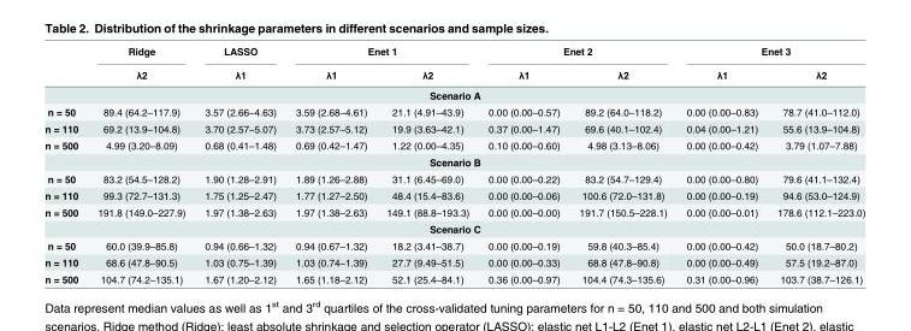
<table><thead><tr><td rowspan="2"></td><td rowspan="2">Ridge λ2</td><td rowspan="2">LASSO λ1</td><td colspan="2">Enet 1</td><td colspan="2">Enet 2</td><td colspan="2">Enet 3</td></tr><tr><td>λ1</td><td>λ2</td><td>λ1</td><td>λ2</td><td>λ1</td><td>λ2</td></tr></thead><tbody><tr><td colspan="9">Scenario A</td></tr><tr><td>n = 50</td><td>89.4 (64.2–117.9)</td><td>3.57 (2.66–4.63)</td><td>3.59 (2.68–4.61)</td><td>21.1 (4.91–43.9)</td><td>0.00 (0.00–0.57)</td><td>89.2 (64.0–118.2)</td><td>0.00 (0.00–0.83)</td><td>78.7 (41.0–112.0)</td></tr><tr><td>n = 110</td><td>69.2 (13.9–104.8)</td><td>3.70 (2.57–5.07)</td><td>3.73 (2.57–5.12)</td><td>19.9 (3.63–42.1)</td><td>0.37 (0.00–1.47)</td><td>69.6 (40.1–102.4)</td><td>0.04 (0.00–1.21)</td><td>55.6 (13.9–104.8)</td></tr><tr><td>n = 500</td><td>4.99 (3.20–8.09)</td><td>0.68 (0.41–1.48)</td><td>0.69 (0.42–1.47)</td><td>1.22 (0.00–4.35)</td><td>0.10 (0.00–0.60)</td><td>4.98 (3.13–8.06)</td><td>0.00 (0.00–0.42)</td><td>3.79 (1.07–7.88)</td></tr><tr><td colspan="9">Scenario B</td></tr><tr><td>n = 50</td><td>83.2 (54.5–128.2)</td><td>1.90 (1.28–2.91)</td><td>1.89 (1.26–2.88)</td><td>31.1 (6.45–69.0)</td><td>0.00 (0.00–0.22)</td><td>83.2 (54.7–129.4)</td><td>0.00 (0.00–0.80)</td><td>79.6 (41.1–132.4)</td></tr><tr><td>n = 110</td><td>99.3 (72.7–131.3)</td><td>1.75 (1.25–2.47)</td><td>1.77 (1.27–2.50)</td><td>48.4 (15.4–83.6)</td><td>0.00 (0.00–0.06)</td><td>100.6 (72.0–131.8)</td><td>0.00 (0.00–0.19)</td><td>94.6 (53.0–124.9)</td></tr><tr><td>n = 500</td><td>191.8 (149.0–227.9)</td><td>1.97 (1.38–2.63)</td><td>1.97 (1.38–2.63)</td><td>149.1 (88.8–193.3)</td><td>0.00 (0.00–0.00)</td><td>191.7 (150.5–228.1)</td><td>0.00 (0.00–0.01)</td><td>178.6 (112.1–223.0)</td></tr><tr><td colspan="9">Scenario C</td></tr><tr><td>n = 50</td><td>60.0 (39.9–85.8)</td><td>0.94 (0.66–1.32)</td><td>0.94 (0.67–1.32)</td><td>18.2 (3.41–38.7)</td><td>0.00 (0.00–0.19)</td><td>59.8 (40.3–85.4)</td><td>0.00 (0.00–0.42)</td><td>50.0 (18.7–80.2)</td></tr><tr><td>n = 110</td><td>68.6 (47.8–90.5)</td><td>1.03 (0.75–1.39)</td><td>1.03 (0.74–1.39)</td><td>27.7 (9.49–51.5)</td><td>0.00 (0.00–0.33)</td><td>68.8 (47.8–90.8)</td><td>0.00 (0.00–0.49)</td><td>57.5 (19.2–87.0)</td></tr><tr><td>n = 500</td><td>104.7 (74.2–135.1)</td><td>1.67 (1.20–2.12)</td><td>1.65 (1.18–2.12)</td><td>52.1 (25.4–84.1)</td><td>0.36 (0.00–0.97)</td><td>104.4 (74.3–135.6)</td><td>0.31 (0.00–0.96)</td><td>103.7 (38.7–126.1)</td></tr></tbody></table>